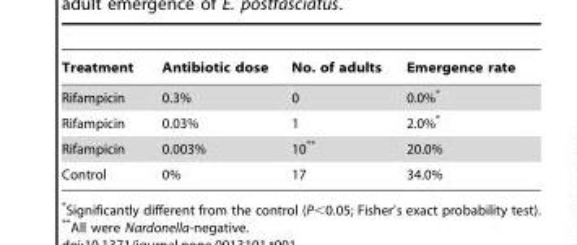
<table><thead><tr><td>Treatment</td><td>Antibiotic dose</td><td>No. of adults</td><td>Emergence rate</td></tr></thead><tbody><tr><td>Rifampicin</td><td>0.3%</td><td>0</td><td>0.0%*</td></tr><tr><td>Rifampicin</td><td>0.03%</td><td>1</td><td>2.0%*</td></tr><tr><td>Rifampicin</td><td>0.003%</td><td>10**</td><td>20.0%</td></tr><tr><td>Control</td><td>0%</td><td>17</td><td>34.0%</td></tr></tbody></table>